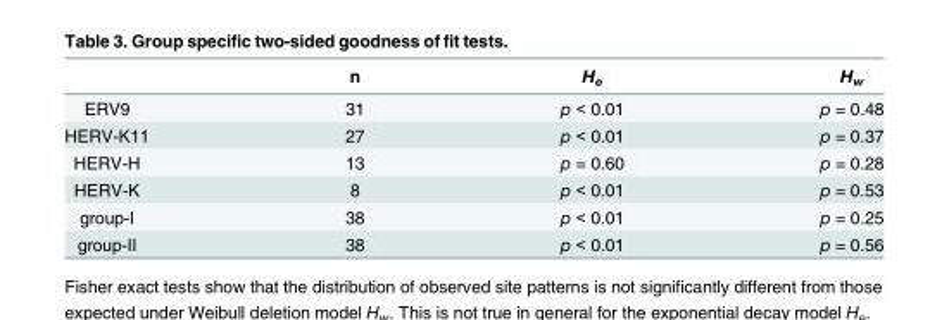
<table><thead><tr><td></td><td>n</td><td>H<sub>e</sub></td><td>H<sub>w</sub></td></tr></thead><tbody><tr><td>ERV9</td><td>31</td><td>p &lt; 0.01</td><td>p = 0.48</td></tr><tr><td>HERV-K11</td><td>27</td><td>p &lt; 0.01</td><td>p = 0.37</td></tr><tr><td>HERV-H</td><td>13</td><td>p = 0.60</td><td>p = 0.28</td></tr><tr><td>HERV-K</td><td>8</td><td>p &lt; 0.01</td><td>p = 0.53</td></tr><tr><td>group-I</td><td>38</td><td>p &lt; 0.01</td><td>p = 0.25</td></tr><tr><td>group-II</td><td>38</td><td>p &lt; 0.01</td><td>p = 0.56</td></tr></tbody></table>